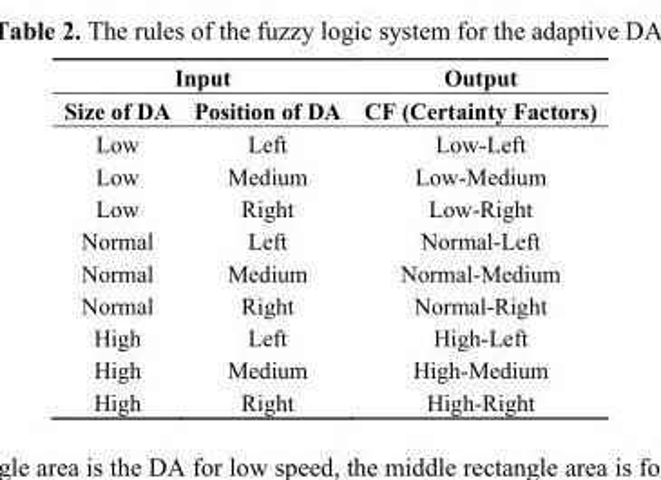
<table><thead><tr><td colspan="2">Input</td><td rowspan="2">Output CF (Certainty Factors)</td></tr><tr><td>Size of DA</td><td>Position of DA</td></tr></thead><tbody><tr><td>Low</td><td>Left</td><td>Low-Left</td></tr><tr><td>Low</td><td>Medium</td><td>Low-Medium</td></tr><tr><td>Low</td><td>Right</td><td>Low-Right</td></tr><tr><td>Normal</td><td>Left</td><td>Normal-Left</td></tr><tr><td>Normal</td><td>Medium</td><td>Normal-Medium</td></tr><tr><td>Normal</td><td>Right</td><td>Normal-Right</td></tr><tr><td>High</td><td>Left</td><td>High-Left</td></tr><tr><td>High</td><td>Medium</td><td>High-Medium</td></tr><tr><td>High</td><td>Right</td><td>High-Right</td></tr></tbody></table>